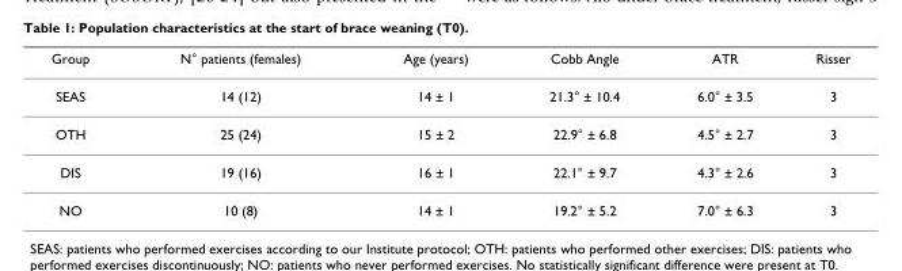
<table><thead><tr><td>Group</td><td>N° patients (females)</td><td>Age (years)</td><td>Cobb Angle</td><td>ATR</td><td>Risser</td></tr></thead><tbody><tr><td>SEAS</td><td>14 (12)</td><td>14 ± 1</td><td>21.3° ± 10.4</td><td>6.0° ± 3.5</td><td>3</td></tr><tr><td>OTH</td><td>25 (24)</td><td>15 ± 2</td><td>22.9° ± 6.8</td><td>4.5° ± 2.7</td><td>3</td></tr><tr><td>DIS</td><td>19 (16)</td><td>16 ± 1</td><td>22.1° ± 9.7</td><td>4.3° ± 2.6</td><td>3</td></tr><tr><td>NO</td><td>10 (8)</td><td>14 ± 1</td><td>19.2° ± 5.2</td><td>7.0° ± 6.3</td><td>3</td></tr></tbody></table>